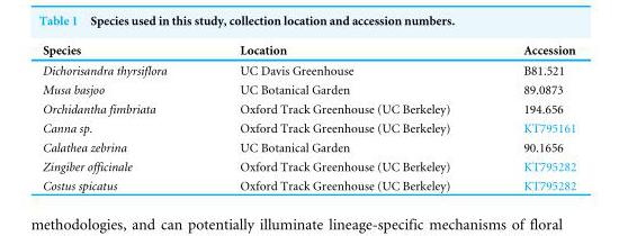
<table><thead><tr><td>Species</td><td>Location</td><td>Accession</td></tr></thead><tbody><tr><td>Dichorisandra thyrsiflora</td><td>UC Davis Greenhouse</td><td>B81.521</td></tr><tr><td>Musa basjoo</td><td>UC Botanical Garden</td><td>89.0873</td></tr><tr><td>Orchidantha fimbriata</td><td>Oxford Track Greenhouse (UC Berkeley)</td><td>194.656</td></tr><tr><td>Canna sp.</td><td>Oxford Track Greenhouse (UC Berkeley)</td><td>KT795161</td></tr><tr><td>Calathea zebrina</td><td>UC Botanical Garden</td><td>90.1656</td></tr><tr><td>Zingiber officinale</td><td>Oxford Track Greenhouse (UC Berkeley)</td><td>KT795282</td></tr><tr><td>Costus spicatus</td><td>Oxford Track Greenhouse (UC Berkeley)</td><td>KT795282</td></tr></tbody></table>